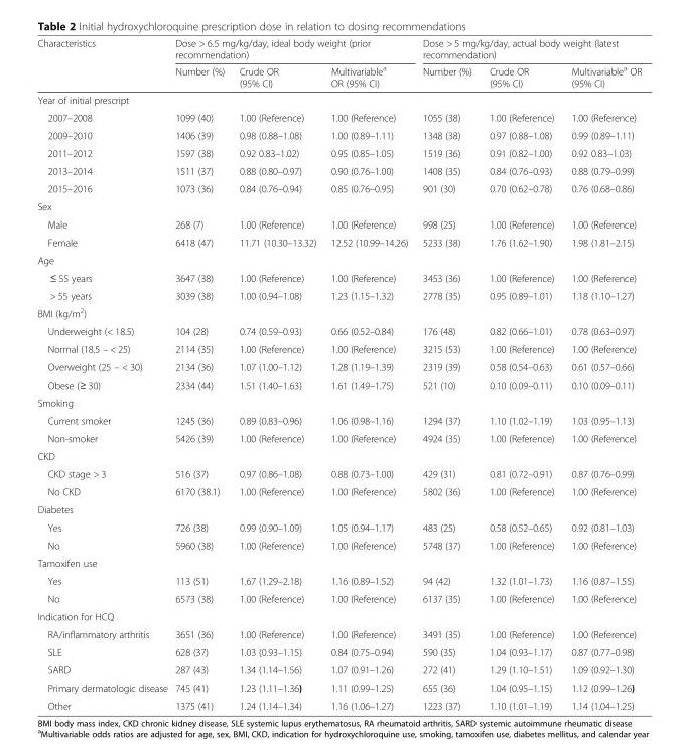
<table><thead><tr><td rowspan="2">Characteristics</td><td colspan="3">Dose &gt; 6.5 mg/kg/day, ideal body weight (prior recommendation)</td><td colspan="3">Dose &gt; 5 mg/kg/day, actual body weight (latest recommendation)</td></tr><tr><td>Number (%)</td><td>Crude OR (95% CI)</td><td>Multivariable<sup>a</sup> OR (95% CI)</td><td>Number (%)</td><td>Crude OR (95% CI)</td><td>Multivariable<sup>a</sup> OR (95% CI)</td></tr></thead><tbody><tr><td colspan="7">Year of initial prescript</td></tr><tr><td>2007–2008</td><td>1099 (40)</td><td>1.00 (Reference)</td><td>1.00 (Reference)</td><td>1055 (38)</td><td>1.00 (Reference)</td><td>1.00 (Reference)</td></tr><tr><td>2009–2010</td><td>1406 (39)</td><td>0.98 (0.88–1.08)</td><td>1.00 (0.89–1.11)</td><td>1348 (38)</td><td>0.97 (0.88–1.08)</td><td>0.99 (0.89–1.11)</td></tr><tr><td>2011–2012</td><td>1597 (38)</td><td>0.92 0.83–1.02)</td><td>0.95 (0.85–1.05)</td><td>1519 (36)</td><td>0.91 (0.82–1.00)</td><td>0.92 0.83–1.03)</td></tr><tr><td>2013–2014</td><td>1511 (37)</td><td>0.88 (0.80–0.97)</td><td>0.90 (0.76–1.00)</td><td>1408 (35)</td><td>0.84 (0.76–0.93)</td><td>0.88 (0.79–0.99)</td></tr><tr><td>2015–2016</td><td>1073 (36)</td><td>0.84 (0.76–0.94)</td><td>0.85 (0.76–0.95)</td><td>901 (30)</td><td>0.70 (0.62–0.78)</td><td>0.76 (0.68–0.86)</td></tr><tr><td colspan="7">Sex</td></tr><tr><td>Male</td><td>268 (7)</td><td>1.00 (Reference)</td><td>1.00 (Reference)</td><td>998 (25)</td><td>1.00 (Reference)</td><td>1.00 (Reference)</td></tr><tr><td>Female</td><td>6418 (47)</td><td>11.71 (10.30–13.32)</td><td>12.52 (10.99–14.26)</td><td>5233 (38)</td><td>1.76 (1.62–1.90)</td><td>1.98 (1.81–2.15)</td></tr><tr><td colspan="7">Age</td></tr><tr><td>≤ 55 years</td><td>3647 (38)</td><td>1.00 (Reference)</td><td>1.00 (Reference)</td><td>3453 (36)</td><td>1.00 (Reference)</td><td>1.00 (Reference)</td></tr><tr><td>&gt; 55 years</td><td>3039 (38)</td><td>1.00 (0.94–1.08)</td><td>1.23 (1.15–1.32)</td><td>2778 (35)</td><td>0.95 (0.89–1.01)</td><td>1.18 (1.10–1.27)</td></tr><tr><td colspan="7">BMI (kg/m<sup>2</sup>)</td></tr><tr><td>Underweight (&lt; 18.5)</td><td>104 (28)</td><td>0.74 (0.59–0.93)</td><td>0.66 (0.52–0.84)</td><td>176 (48)</td><td>0.82 (0.66–1.01)</td><td>0.78 (0.63–0.97)</td></tr><tr><td>Normal (18.5 – &lt; 25)</td><td>2114 (35)</td><td>1.00 (Reference)</td><td>1.00 (Reference)</td><td>3215 (53)</td><td>1.00 (Reference)</td><td>1.00 (Reference)</td></tr><tr><td>Overweight (25 – &lt; 30)</td><td>2134 (36)</td><td>1.07 (1.00–1.12)</td><td>1.28 (1.19–1.39)</td><td>2319 (39)</td><td>0.58 (0.54–0.63)</td><td>0.61 (0.57–0.66)</td></tr><tr><td>Obese (≥ 30)</td><td>2334 (44)</td><td>1.51 (1.40–1.63)</td><td>1.61 (1.49–1.75)</td><td>521 (10)</td><td>0.10 (0.09–0.11)</td><td>0.10 (0.09–0.11)</td></tr><tr><td colspan="7">Smoking</td></tr><tr><td>Current smoker</td><td>1245 (36)</td><td>0.89 (0.83–0.96)</td><td>1.06 (0.98–1.16)</td><td>1294 (37)</td><td>1.10 (1.02–1.19)</td><td>1.03 (0.95–1.13)</td></tr><tr><td>Non-smoker</td><td>5426 (39)</td><td>1.00 (Reference)</td><td>1.00 (Reference)</td><td>4924 (35)</td><td>1.00 (Reference)</td><td>1.00 (Reference)</td></tr><tr><td colspan="7">CKD</td></tr><tr><td>CKD stage &gt; 3</td><td>516 (37)</td><td>0.97 (0.86–1.08)</td><td>0.88 (0.73–1.00)</td><td>429 (31)</td><td>0.81 (0.72–0.91)</td><td>0.87 (0.76–0.99)</td></tr><tr><td>No CKD</td><td>6170 (38.1)</td><td>1.00 (Reference)</td><td>1.00 (Reference)</td><td>5802 (36)</td><td>1.00 (Reference)</td><td>1.00 (Reference)</td></tr><tr><td colspan="7">Diabetes</td></tr><tr><td>Yes</td><td>726 (38)</td><td>0.99 (0.90–1.09)</td><td>1.05 (0.94–1.17)</td><td>483 (25)</td><td>0.58 (0.52–0.65)</td><td>0.92 (0.81–1.03)</td></tr><tr><td>No</td><td>5960 (38)</td><td>1.00 (Reference)</td><td>1.00 (Reference)</td><td>5748 (37)</td><td>1.00 (Reference)</td><td>1.00 (Reference)</td></tr><tr><td colspan="7">Tamoxifen use</td></tr><tr><td>Yes</td><td>113 (51)</td><td>1.67 (1.29–2.18)</td><td>1.16 (0.89–1.52)</td><td>94 (42)</td><td>1.32 (1.01–1.73)</td><td>1.16 (0.87–1.55)</td></tr><tr><td>No</td><td>6573 (38)</td><td>1.00 (Reference)</td><td>1.00 (Reference)</td><td>6137 (35)</td><td>1.00 (Reference)</td><td>1.00 (Reference)</td></tr><tr><td colspan="7">Indication for HCQ</td></tr><tr><td>RA/inflammatory arthritis</td><td>3651 (36)</td><td>1.00 (Reference)</td><td>1.00 (Reference)</td><td>3491 (35)</td><td>1.00 (Reference)</td><td>1.00 (Reference)</td></tr><tr><td>SLE</td><td>628 (37)</td><td>1.03 (0.93–1.15)</td><td>0.84 (0.75–0.94)</td><td>590 (35)</td><td>1.04 (0.93–1.17)</td><td>0.87 (0.77–0.98)</td></tr><tr><td>SARD</td><td>287 (43)</td><td>1.34 (1.14–1.56)</td><td>1.07 (0.91–1.26)</td><td>272 (41)</td><td>1.29 (1.10–1.51)</td><td>1.09 (0.92–1.30)</td></tr><tr><td>Primary dermatologic disease</td><td>745 (41)</td><td>1.23 (1.11–1.36)</td><td>1.11 (0.99–1.25)</td><td>655 (36)</td><td>1.04 (0.95–1.15)</td><td>1.12 (0.99–1.26)</td></tr><tr><td>Other</td><td>1375 (41)</td><td>1.24 (1.14–1.34)</td><td>1.16 (1.06–1.27)</td><td>1223 (37)</td><td>1.10 (1.01–1.19)</td><td>1.14 (1.04–1.25)</td></tr></tbody></table>